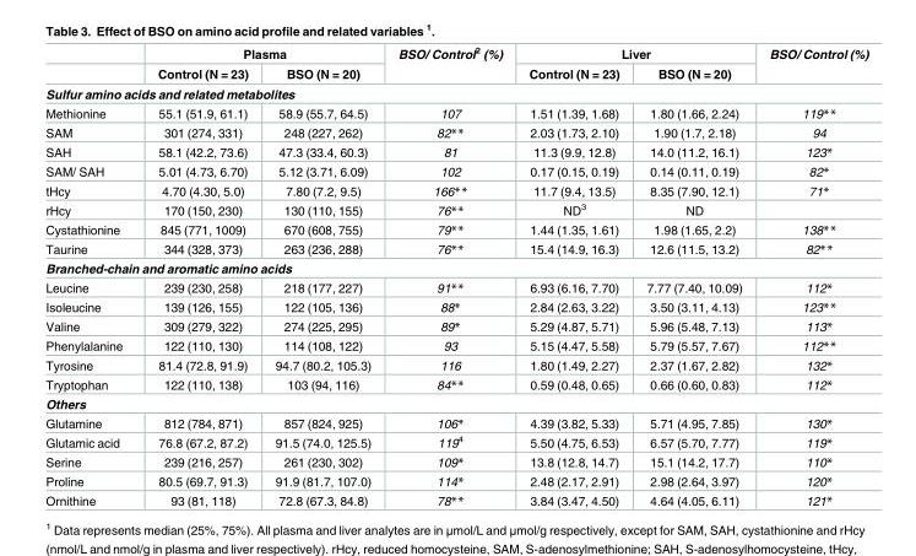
<table><thead><tr><td rowspan="2"></td><td colspan="2">Plasma</td><td rowspan="2">BSO/ Control<sup>2</sup> (%)</td><td colspan="2">Liver</td><td rowspan="2">BSO/ Control (%)</td></tr><tr><td>Control (N = 23)</td><td>BSO (N = 20)</td><td>Control (N = 23)</td><td>BSO (N = 20)</td></tr></thead><tbody><tr><td colspan="7">Sulfur amino acids and related metabolites</td></tr><tr><td>Methionine</td><td>55.1 (51.9, 61.1)</td><td>58.9 (55.7, 64.5)</td><td>107</td><td>1.51 (1.39, 1.68)</td><td>1.80 (1.66, 2.24)</td><td>119**</td></tr><tr><td>SAM</td><td>301 (274, 331)</td><td>248 (227, 262)</td><td>82**</td><td>2.03 (1.73, 2.10)</td><td>1.90 (1.7, 2.18)</td><td>94</td></tr><tr><td>SAH</td><td>58.1 (42.2, 73.6)</td><td>47.3 (33.4, 60.3)</td><td>81</td><td>11.3 (9.9, 12.8)</td><td>14.0 (11.2, 16.1)</td><td>123*</td></tr><tr><td>SAM/ SAH</td><td>5.01 (4.73, 6.70)</td><td>5.12 (3.71, 6.09)</td><td>102</td><td>0.17 (0.15, 0.19)</td><td>0.14 (0.11, 0.19)</td><td>82*</td></tr><tr><td>tHcy</td><td>4.70 (4.30, 5.0)</td><td>7.80 (7.2, 9.5)</td><td>166**</td><td>11.7 (9.4, 13.5)</td><td>8.35 (7.90, 12.1)</td><td>71*</td></tr><tr><td>rHcy</td><td>170 (150, 230)</td><td>130 (110, 155)</td><td>76**</td><td>ND<sup>3</sup></td><td>ND</td><td></td></tr><tr><td>Cystathionine</td><td>845 (771, 1009)</td><td>670 (608, 755)</td><td>79**</td><td>1.44 (1.35, 1.61)</td><td>1.98 (1.65, 2.2)</td><td>138**</td></tr><tr><td>Taurine</td><td>344 (328, 373)</td><td>263 (236, 288)</td><td>76**</td><td>15.4 (14.9, 16.3)</td><td>12.6 (11.5, 13.2)</td><td>82**</td></tr><tr><td colspan="7">Branched-chain and aromatic amino acids</td></tr><tr><td>Leucine</td><td>239 (230, 258)</td><td>218 (177, 227)</td><td>91**</td><td>6.93 (6.16, 7.70)</td><td>7.77 (7.40, 10.09)</td><td>112*</td></tr><tr><td>Isoleucine</td><td>139 (126, 155)</td><td>122 (105, 136)</td><td>88*</td><td>2.84 (2.63, 3.22)</td><td>3.50 (3.11, 4.13)</td><td>123**</td></tr><tr><td>Valine</td><td>309 (279, 322)</td><td>274 (225, 295)</td><td>89*</td><td>5.29 (4.87, 5.71)</td><td>5.96 (5.48, 7.13)</td><td>113*</td></tr><tr><td>Phenylalanine</td><td>122 (110, 130)</td><td>114 (108, 122)</td><td>93</td><td>5.15 (4.47, 5.58)</td><td>5.79 (5.57, 7.67)</td><td>112**</td></tr><tr><td>Tyrosine</td><td>81.4 (72.8, 91.9)</td><td>94.7 (80.2, 105.3)</td><td>116</td><td>1.80 (1.49, 2.27)</td><td>2.37 (1.67, 2.82)</td><td>132*</td></tr><tr><td>Tryptophan</td><td>122 (110, 138)</td><td>103 (94, 116)</td><td>84**</td><td>0.59 (0.48, 0.65)</td><td>0.66 (0.60, 0.83)</td><td>112*</td></tr><tr><td colspan="7">Others</td></tr><tr><td>Glutamine</td><td>812 (784, 871)</td><td>857 (824, 925)</td><td>106*</td><td>4.39 (3.82, 5.33)</td><td>5.71 (4.95, 7.85)</td><td>130*</td></tr><tr><td>Glutamic acid</td><td>76.8 (67.2, 87.2)</td><td>91.5 (74.0, 125.5)</td><td>119<sup>4</sup></td><td>5.50 (4.75, 6.53)</td><td>6.57 (5.70, 7.77)</td><td>119*</td></tr><tr><td>Serine</td><td>239 (216, 257)</td><td>261 (230, 302)</td><td>109*</td><td>13.8 (12.8, 14.7)</td><td>15.1 (14.2, 17.7)</td><td>110*</td></tr><tr><td>Proline</td><td>80.5 (69.7, 91.3)</td><td>91.9 (81.7, 107.0)</td><td>114*</td><td>2.48 (2.17, 2.91)</td><td>2.98 (2.64, 3.97)</td><td>120*</td></tr><tr><td>Ornithine</td><td>93 (81, 118)</td><td>72.8 (67.3, 84.8)</td><td>78**</td><td>3.84 (3.47, 4.50)</td><td>4.64 (4.05, 6.11)</td><td>121*</td></tr></tbody></table>